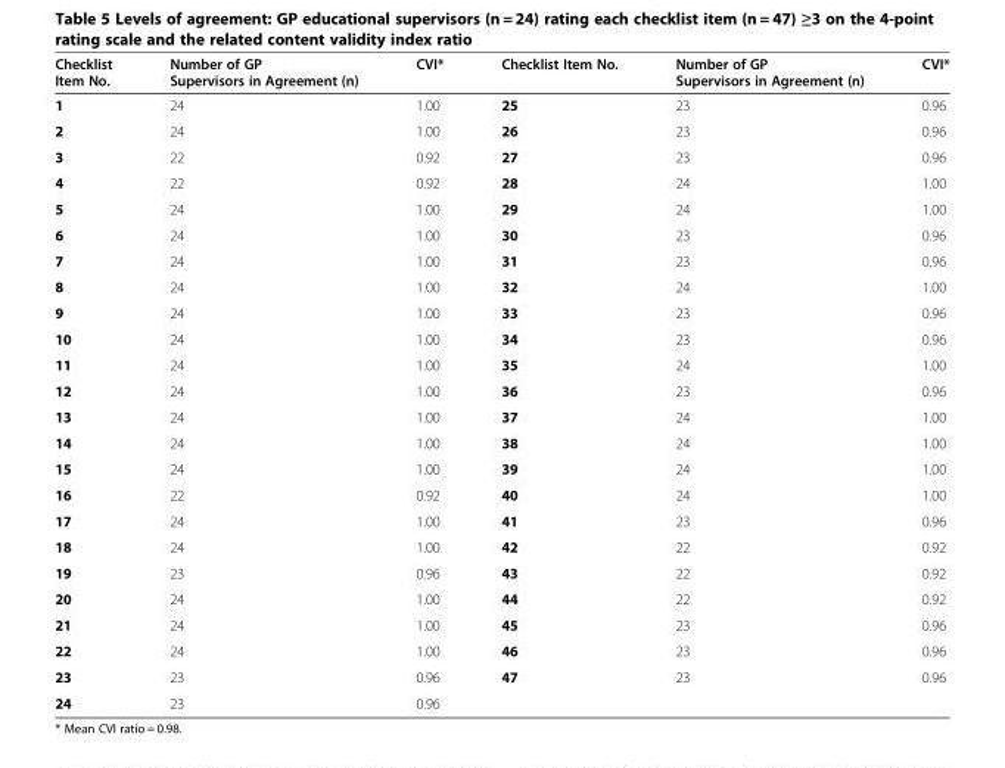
<table><thead><tr><td>Checklist Item No.</td><td>Number of GP Supervisors in Agreement (n)</td><td>CVI*</td><td>Checklist Item No.</td><td>Number of GP Supervisors in Agreement (n)</td><td>CVI*</td></tr></thead><tbody><tr><td>1</td><td>24</td><td>1.00</td><td>25</td><td>23</td><td>0.96</td></tr><tr><td>2</td><td>24</td><td>1.00</td><td>26</td><td>23</td><td>0.96</td></tr><tr><td>3</td><td>22</td><td>0.92</td><td>27</td><td>23</td><td>0.96</td></tr><tr><td>4</td><td>22</td><td>0.92</td><td>28</td><td>24</td><td>1.00</td></tr><tr><td>5</td><td>24</td><td>1.00</td><td>29</td><td>24</td><td>1.00</td></tr><tr><td>6</td><td>24</td><td>1.00</td><td>30</td><td>23</td><td>0.96</td></tr><tr><td>7</td><td>24</td><td>1.00</td><td>31</td><td>23</td><td>0.96</td></tr><tr><td>8</td><td>24</td><td>1.00</td><td>32</td><td>24</td><td>1.00</td></tr><tr><td>9</td><td>24</td><td>1.00</td><td>33</td><td>23</td><td>0.96</td></tr><tr><td>10</td><td>24</td><td>1.00</td><td>34</td><td>23</td><td>0.96</td></tr><tr><td>11</td><td>24</td><td>1.00</td><td>35</td><td>24</td><td>1.00</td></tr><tr><td>12</td><td>24</td><td>1.00</td><td>36</td><td>23</td><td>0.96</td></tr><tr><td>13</td><td>24</td><td>1.00</td><td>37</td><td>24</td><td>1.00</td></tr><tr><td>14</td><td>24</td><td>1.00</td><td>38</td><td>24</td><td>1.00</td></tr><tr><td>15</td><td>24</td><td>1.00</td><td>39</td><td>24</td><td>1.00</td></tr><tr><td>16</td><td>22</td><td>0.92</td><td>40</td><td>24</td><td>1.00</td></tr><tr><td>17</td><td>24</td><td>1.00</td><td>41</td><td>23</td><td>0.96</td></tr><tr><td>18</td><td>24</td><td>1.00</td><td>42</td><td>22</td><td>0.92</td></tr><tr><td>19</td><td>23</td><td>0.96</td><td>43</td><td>22</td><td>0.92</td></tr><tr><td>20</td><td>24</td><td>1.00</td><td>44</td><td>22</td><td>0.92</td></tr><tr><td>21</td><td>24</td><td>1.00</td><td>45</td><td>23</td><td>0.96</td></tr><tr><td>22</td><td>24</td><td>1.00</td><td>46</td><td>23</td><td>0.96</td></tr><tr><td>23</td><td>23</td><td>0.96</td><td>47</td><td>23</td><td>0.96</td></tr><tr><td>24</td><td>23</td><td>0.96</td><td></td><td></td><td></td></tr></tbody></table>